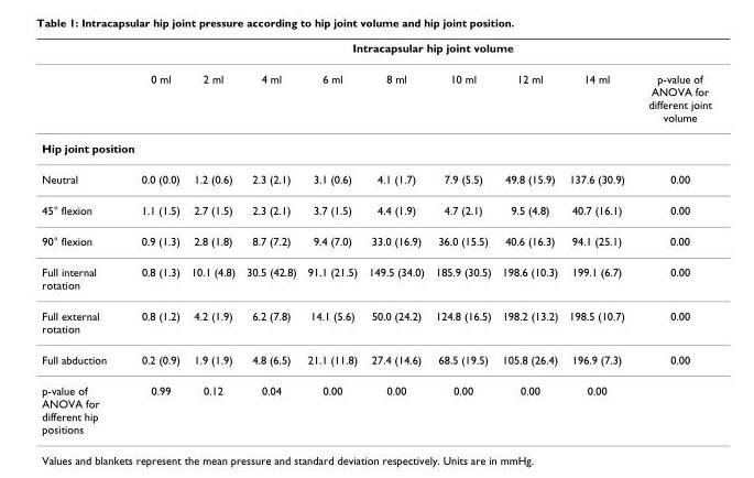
<table><thead><tr><td rowspan="2"></td><td colspan="9">Intracapsular hip joint volume</td></tr><tr><td>0 ml</td><td>2 ml</td><td>4 ml</td><td>6 ml</td><td>8 ml</td><td>10 ml</td><td>12 ml</td><td>14 ml</td><td>p-value of ANOVA for different joint volume</td></tr></thead><tbody><tr><td colspan="10">Hip joint position</td></tr><tr><td>Neutral</td><td>0.0 (0.0)</td><td>1.2 (0.6)</td><td>2.3 (2.1)</td><td>3.1 (0.6)</td><td>4.1 (1.7)</td><td>7.9 (5.5)</td><td>49.8 (15.9)</td><td>137.6 (30.9)</td><td>0.00</td></tr><tr><td>45° flexion</td><td>1.1 (1.5)</td><td>2.7 (1.5)</td><td>2.3 (2.1)</td><td>3.7 (1.5)</td><td>4.4 (1.9)</td><td>4.7 (2.1)</td><td>9.5 (4.8)</td><td>40.7 (16.1)</td><td>0.00</td></tr><tr><td>90° flexion</td><td>0.9 (1.3)</td><td>2.8 (1.8)</td><td>8.7 (7.2)</td><td>9.4 (7.0)</td><td>33.0 (16.9)</td><td>36.0 (15.5)</td><td>40.6 (16.3)</td><td>94.1 (25.1)</td><td>0.00</td></tr><tr><td>Full internal rotation</td><td>0.8 (1.3)</td><td>10.1 (4.8)</td><td>30.5 (42.8)</td><td>91.1 (21.5)</td><td>149.5 (34.0)</td><td>185.9 (30.5)</td><td>198.6 (10.3)</td><td>199.1 (6.7)</td><td>0.00</td></tr><tr><td>Full external rotation</td><td>0.8 (1.2)</td><td>4.2 (1.9)</td><td>6.2 (7.8)</td><td>14.1 (5.6)</td><td>50.0 (24.2)</td><td>124.8 (16.5)</td><td>198.2 (13.2)</td><td>198.5 (10.7)</td><td>0.00</td></tr><tr><td>Full abduction</td><td>0.2 (0.9)</td><td>1.9 (1.9)</td><td>4.8 (6.5)</td><td>21.1 (11.8)</td><td>27.4 (14.6)</td><td>68.5 (19.5)</td><td>105.8 (26.4)</td><td>196.9 (7.3)</td><td>0.00</td></tr><tr><td>p-value of ANOVA for different hip positions</td><td>0.99</td><td>0.12</td><td>0.04</td><td>0.00</td><td>0.00</td><td>0.00</td><td>0.00</td><td>0.00</td><td></td></tr></tbody></table>